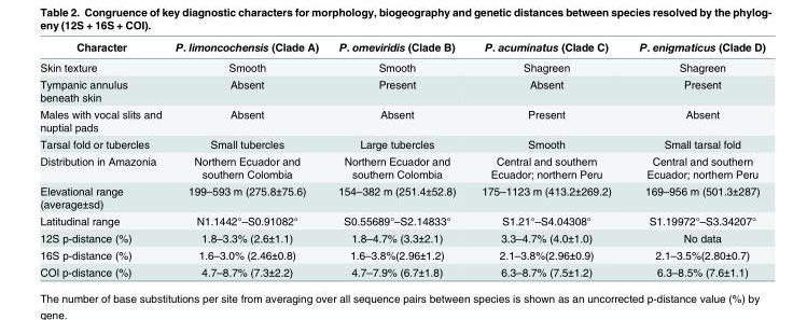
<table><thead><tr><td>Character</td><td>P. limoncochensis (Clade A)</td><td>P. omeviridis (Clade B)</td><td>P. acuminatus (Clade C)</td><td>P. enigmaticus (Clade D)</td></tr></thead><tbody><tr><td>Skin texture</td><td>Smooth</td><td>Smooth</td><td>Shagreen</td><td>Shagreen</td></tr><tr><td>Tympanic annulus beneath skin</td><td>Absent</td><td>Present</td><td>Absent</td><td>Present</td></tr><tr><td>Males with vocal slits and nuptial pads</td><td>Absent</td><td>Absent</td><td>Present</td><td>Absent</td></tr><tr><td>Tarsal fold or tubercles</td><td>Small tubercles</td><td>Large tubercles</td><td>Smooth</td><td>Small tarsal fold</td></tr><tr><td>Distribution in Amazonia</td><td>Northern Ecuador and southern Colombia</td><td>Northern Ecuador and southern Colombia</td><td>Central and southern Ecuador; northern Peru</td><td>Central and southern Ecuador; northern Peru</td></tr><tr><td>Elevational range (average±sd)</td><td>199–593 m (275.8±75.6)</td><td>154–382 m (251.4±52.8)</td><td>175–1123 m (413.2±269.2)</td><td>169–956 m (501.3±287)</td></tr><tr><td>Latitudinal range</td><td>N1.1442°–S0.91082°</td><td>S0.55689°–S2.14833°</td><td>S1.21°–S4.04308°</td><td>S1.19972°–S3.34207°</td></tr><tr><td>12S p-distance (%)</td><td>1.8–3.3% (2.6±1.1)</td><td>1.8–4.7% (3.3±2.1)</td><td>3.3–4.7% (4.0±1.0)</td><td>No data</td></tr><tr><td>16S p-distance (%)</td><td>1.6–3.0% (2.46±0.8)</td><td>1.6–3.8%(2.96±1.2)</td><td>2.1–3.8%(2.96±0.9)</td><td>2.1–3.5%(2.80±0.7)</td></tr><tr><td>COI p-distance (%)</td><td>4.7–8.7% (7.3±2.2)</td><td>4.7–7.9% (6.7±1.8)</td><td>6.3–8.7% (7.5±1.2)</td><td>6.3–8.5% (7.6±1.1)</td></tr></tbody></table>